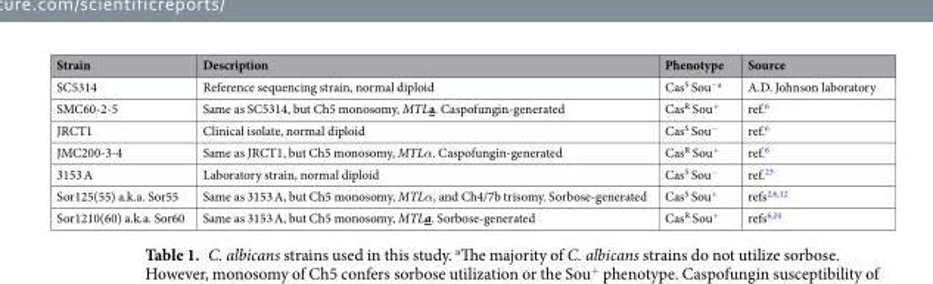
<table><thead><tr><td>Strain</td><td>Description</td><td>Phenotype</td><td>Source</td></tr></thead><tbody><tr><td>SC5314</td><td>Reference sequencing strain, normal diploid</td><td>Cas<sup>S</sup> Sou<sup>−a</sup></td><td>A.D. Johnson laboratory</td></tr><tr><td>SMC60-2-5</td><td>Same as SC5314, but Ch5 monosomy, MTLa. Caspofungin-generated</td><td>Cas<sup>R</sup> Sou<sup>+</sup></td><td>ref.<sup>6</sup></td></tr><tr><td>JRCT1</td><td>Clinical isolate, normal diploid</td><td>Cas<sup>S</sup> Sou<sup>−</sup></td><td>ref.<sup>6</sup></td></tr><tr><td>JMC200-3-4</td><td>Same as JRCT1, but Ch5 monosomy, MTLα. Caspofungin-generated</td><td>Cas<sup>R</sup> Sou<sup>+</sup></td><td>ref.<sup>6</sup></td></tr><tr><td>3153 A</td><td>Laboratory strain, normal diploid</td><td>Cas<sup>S</sup> Sou<sup>−</sup></td><td>ref.<sup>23</sup></td></tr><tr><td>Sor125(55) a.k.a. Sor55</td><td>Same as 3153 A, but Ch5 monosomy, MTLα, and Ch4/7b trisomy. Sorbose-generated</td><td>Cas<sup>S</sup> Sou<sup>+</sup></td><td>refs<sup>2,6,12</sup></td></tr><tr><td>Sor1210(60) a.k.a. Sor60</td><td>Same as 3153 A, but Ch5 monosomy, MTLa. Sorbose-generated</td><td>Cas<sup>R</sup> Sou<sup>+</sup></td><td>refs<sup>6,24</sup></td></tr></tbody></table>